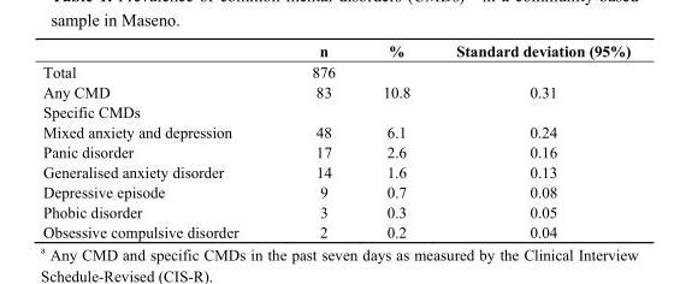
<table><thead><tr><td></td><td>n</td><td>%</td><td>Standard deviation (95%)</td></tr></thead><tbody><tr><td>Total</td><td>876</td><td></td><td></td></tr><tr><td>Any CMD</td><td>83</td><td>10.8</td><td>0.31</td></tr><tr><td colspan="4">Specific CMDs</td></tr><tr><td>Mixed anxiety and depression</td><td>48</td><td>6.1</td><td>0.24</td></tr><tr><td>Panic disorder</td><td>17</td><td>2.6</td><td>0.16</td></tr><tr><td>Generalised anxiety disorder</td><td>14</td><td>1.6</td><td>0.13</td></tr><tr><td>Depressive episode</td><td>9</td><td>0.7</td><td>0.08</td></tr><tr><td>Phobic disorder</td><td>3</td><td>0.3</td><td>0.05</td></tr><tr><td>Obsessive compulsive disorder</td><td>2</td><td>0.2</td><td>0.04</td></tr></tbody></table>